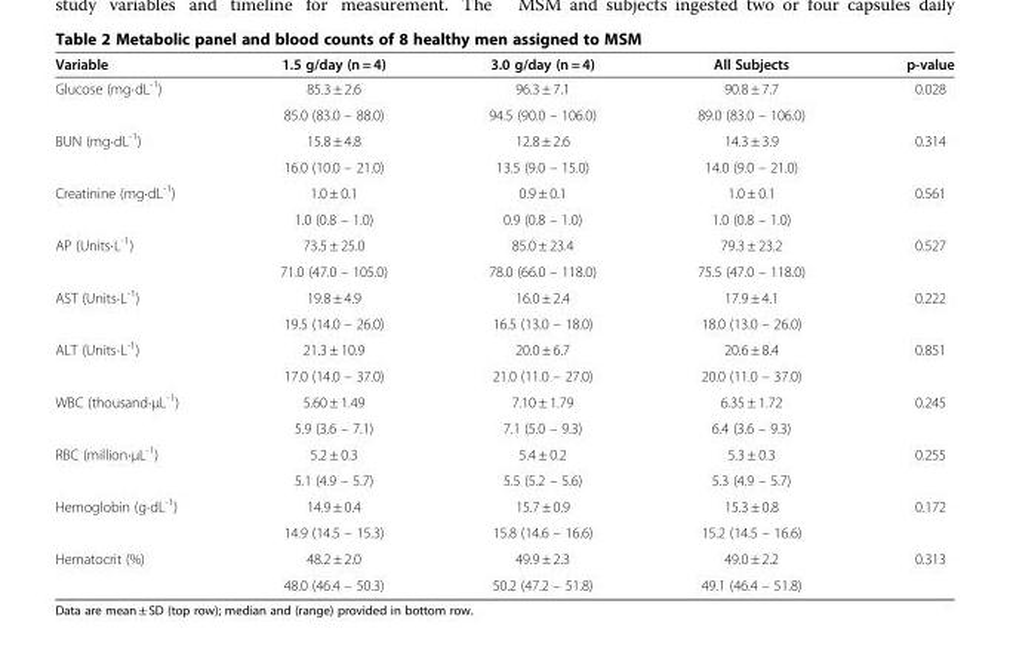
<table><thead><tr><td>Variable</td><td>1.5 g/day (n = 4)</td><td>3.0 g/day (n = 4)</td><td>All Subjects</td><td>p-value</td></tr></thead><tbody><tr><td rowspan="2">Glucose (mg·dL<sup>-1</sup>)</td><td>85.3 ± 2.6</td><td>96.3 ± 7.1</td><td>90.8 ± 7.7</td><td rowspan="2">0.028</td></tr><tr><td>85.0 (83.0 – 88.0)</td><td>94.5 (90.0 – 106.0)</td><td>89.0 (83.0 – 106.0)</td></tr><tr><td rowspan="2">BUN (mg·dL<sup>-1</sup>)</td><td>15.8 ± 4.8</td><td>12.8 ± 2.6</td><td>14.3 ± 3.9</td><td rowspan="2">0.314</td></tr><tr><td>16.0 (10.0 – 21.0)</td><td>13.5 (9.0 – 15.0)</td><td>14.0 (9.0 – 21.0)</td></tr><tr><td rowspan="2">Creatinine (mg·dL<sup>-1</sup>)</td><td>1.0 ± 0.1</td><td>0.9 ± 0.1</td><td>1.0 ± 0.1</td><td rowspan="2">0.561</td></tr><tr><td>1.0 (0.8 – 1.0)</td><td>0.9 (0.8 – 1.0)</td><td>1.0 (0.8 – 1.0)</td></tr><tr><td rowspan="2">AP (Units·L<sup>-1</sup>)</td><td>73.5 ± 25.0</td><td>85.0 ± 23.4</td><td>79.3 ± 23.2</td><td rowspan="2">0.527</td></tr><tr><td>71.0 (47.0 – 105.0)</td><td>78.0 (66.0 – 118.0)</td><td>75.5 (47.0 – 118.0)</td></tr><tr><td rowspan="2">AST (Units·L<sup>-1</sup>)</td><td>19.8 ± 4.9</td><td>16.0 ± 2.4</td><td>17.9 ± 4.1</td><td rowspan="2">0.222</td></tr><tr><td>19.5 (14.0 – 26.0)</td><td>16.5 (13.0 – 18.0)</td><td>18.0 (13.0 – 26.0)</td></tr><tr><td rowspan="2">ALT (Units·L<sup>-1</sup>)</td><td>21.3 ± 10.9</td><td>20.0 ± 6.7</td><td>20.6 ± 8.4</td><td rowspan="2">0.851</td></tr><tr><td>17.0 (14.0 – 37.0)</td><td>21.0 (11.0 – 27.0)</td><td>20.0 (11.0 – 37.0)</td></tr><tr><td rowspan="2">WBC (thousand·μL<sup>-1</sup>)</td><td>5.60 ± 1.49</td><td>7.10 ± 1.79</td><td>6.35 ± 1.72</td><td rowspan="2">0.245</td></tr><tr><td>5.9 (3.6 – 7.1)</td><td>7.1 (5.0 – 9.3)</td><td>6.4 (3.6 – 9.3)</td></tr><tr><td rowspan="2">RBC (million·μL<sup>-1</sup>)</td><td>5.2 ± 0.3</td><td>5.4 ± 0.2</td><td>5.3 ± 0.3</td><td rowspan="2">0.255</td></tr><tr><td>5.1 (4.9 – 5.7)</td><td>5.5 (5.2 – 5.6)</td><td>5.3 (4.9 – 5.7)</td></tr><tr><td rowspan="2">Hemoglobin (g·dL<sup>-1</sup>)</td><td>14.9 ± 0.4</td><td>15.7 ± 0.9</td><td>15.3 ± 0.8</td><td rowspan="2">0.172</td></tr><tr><td>14.9 (14.5 – 15.3)</td><td>15.8 (14.6 – 16.6)</td><td>15.2 (14.5 – 16.6)</td></tr><tr><td rowspan="2">Hematocrit (%)</td><td>48.2 ± 2.0</td><td>49.9 ± 2.3</td><td>49.0 ± 2.2</td><td>0.313</td></tr><tr><td>48.0 (46.4 – 50.3)</td><td>50.2 (47.2 – 51.8)</td><td>49.1 (46.4 – 51.8)</td><td></td></tr></tbody></table>